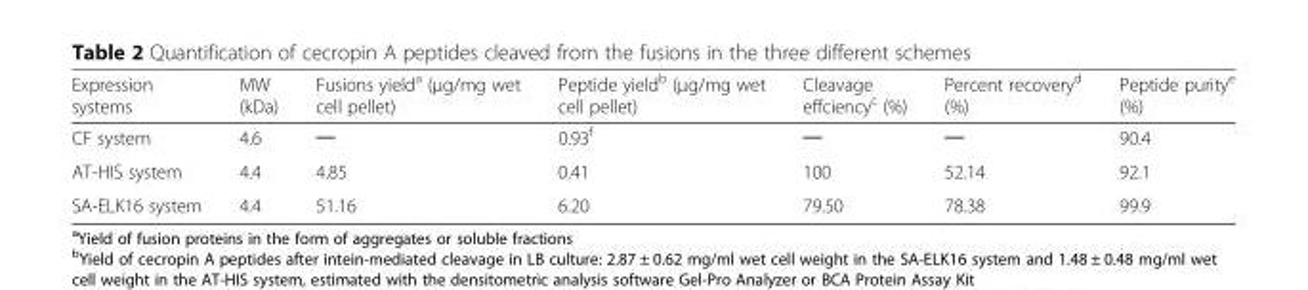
<table><thead><tr><td>Expression systems</td><td>MW (kDa)</td><td>Fusions yield<sup>a</sup> (μg/mg wet cell pellet)</td><td>Peptide yield<sup>b</sup> (μg/mg wet cell pellet)</td><td>Cleavage effciency<sup>c</sup> (%)</td><td>Percent recovery<sup>d</sup> (%)</td><td>Peptide purity<sup>e</sup> (%)</td></tr></thead><tbody><tr><td>CF system</td><td>4.6</td><td>─</td><td>0.93<sup>f</sup></td><td>─</td><td>─</td><td>90.4</td></tr><tr><td>AT-HIS system</td><td>4.4</td><td>4.85</td><td>0.41</td><td>100</td><td>52.14</td><td>92.1</td></tr><tr><td>SA-ELK16 system</td><td>4.4</td><td>51.16</td><td>6.20</td><td>79.50</td><td>78.38</td><td>99.9</td></tr></tbody></table>